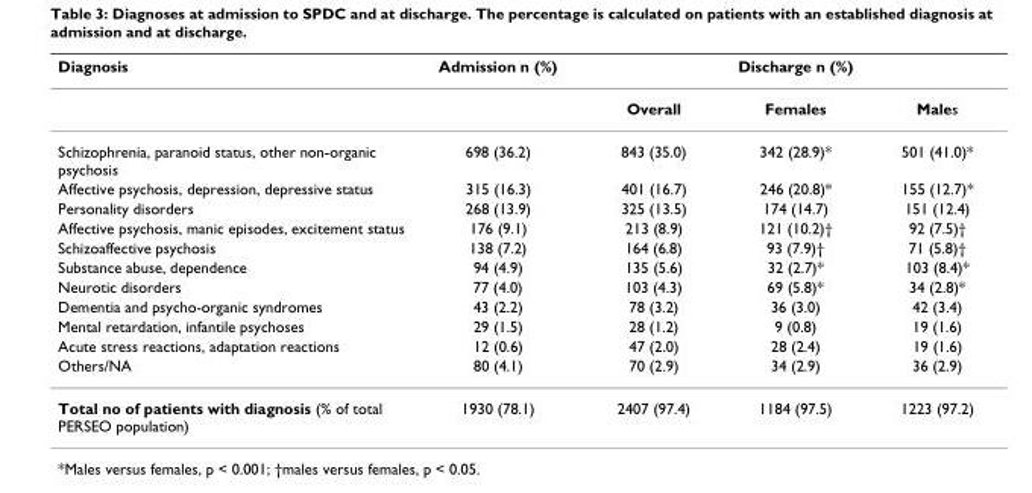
<table><thead><tr><td rowspan="2">Diagnosis</td><td rowspan="2">Admission n (%)</td><td colspan="3">Discharge n (%)</td></tr><tr><td>Overall</td><td>Females</td><td>Males</td></tr></thead><tbody><tr><td>Schizophrenia, paranoid status, other non-organic psychosis</td><td>698 (36.2)</td><td>843 (35.0)</td><td>342 (28.9)*</td><td>501 (41.0)*</td></tr><tr><td>Affective psychosis, depression, depressive status</td><td>315 (16.3)</td><td>401 (16.7)</td><td>246 (20.8)*</td><td>155 (12.7)*</td></tr><tr><td>Personality disorders</td><td>268 (13.9)</td><td>325 (13.5)</td><td>174 (14.7)</td><td>151 (12.4)</td></tr><tr><td>Affective psychosis, manic episodes, excitement status</td><td>176 (9.1)</td><td>213 (8.9)</td><td>121 (10.2)†</td><td>92 (7.5)†</td></tr><tr><td>Schizoaffective psychosis</td><td>138 (7.2)</td><td>164 (6.8)</td><td>93 (7.9)†</td><td>71 (5.8)†</td></tr><tr><td>Substance abuse, dependence</td><td>94 (4.9)</td><td>135 (5.6)</td><td>32 (2.7)*</td><td>103 (8.4)*</td></tr><tr><td>Neurotic disorders</td><td>77 (4.0)</td><td>103 (4.3)</td><td>69 (5.8)*</td><td>34 (2.8)*</td></tr><tr><td>Dementia and psycho-organic syndromes</td><td>43 (2.2)</td><td>78 (3.2)</td><td>36 (3.0)</td><td>42 (3.4)</td></tr><tr><td>Mental retardation, infantile psychoses</td><td>29 (1.5)</td><td>28 (1.2)</td><td>9 (0.8)</td><td>19 (1.6)</td></tr><tr><td>Acute stress reactions, adaptation reactions</td><td>12 (0.6)</td><td>47 (2.0)</td><td>28 (2.4)</td><td>19 (1.6)</td></tr><tr><td>Others/NA</td><td>80 (4.1)</td><td>70 (2.9)</td><td>34 (2.9)</td><td>36 (2.9)</td></tr><tr><td>Total no of patients with diagnosis (% of total PERSEO population)</td><td>1930 (78.1)</td><td>2407 (97.4)</td><td>1184 (97.5)</td><td>1223 (97.2)</td></tr></tbody></table>